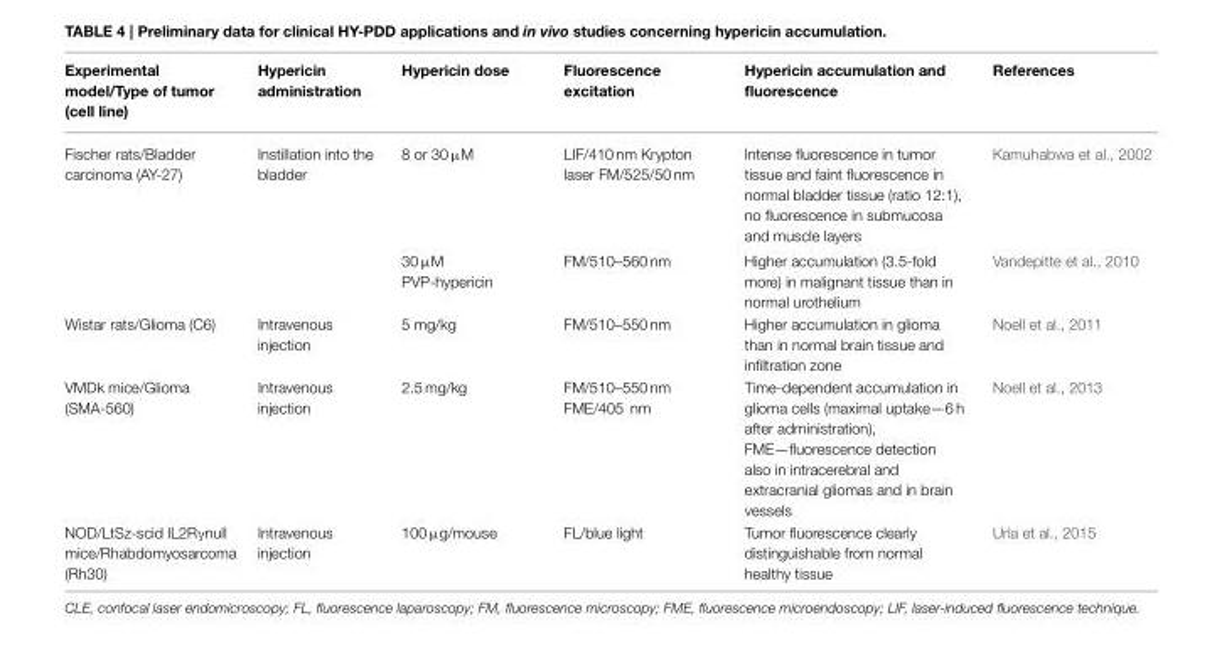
<table><thead><tr><td>Experimental model/Type of tumor (cell line)</td><td>Hypericin administration</td><td>Hypericin dose</td><td>Fluorescence excitation</td><td>Hypericin accumulation and fluorescence</td><td>References</td></tr></thead><tbody><tr><td rowspan="2">Fischer rats/Bladder carcinoma (AY-27)</td><td>Instillation into the bladder</td><td>8 or 30 µM</td><td>LIF/410 nm Krypton laser FM/525/50 nm</td><td>Intense fluorescence in tumor tissue and faint fluorescence in normal bladder tissue (ratio 12:1), no fluorescence in submucosa and muscle layers</td><td>Kamuhabwa et al., 2002</td></tr><tr><td></td><td>30 µM PVP-hypericin</td><td>FM/510–560 nm</td><td>Higher accumulation (3.5-fold more) in malignant tissue than in normal urothelium</td><td>Vandepitte et al., 2010</td></tr><tr><td>Wistar rats/Glioma (C6)</td><td>Intravenous injection</td><td>5 mg/kg</td><td>FM/510–550 nm</td><td>Higher accumulation in glioma than in normal brain tissue and infiltration zone</td><td>Noell et al., 2011</td></tr><tr><td>VMDk mice/Glioma (SMA-560)</td><td>Intravenous injection</td><td>2.5 mg/kg</td><td>FM/510–550 nm FME/405 nm</td><td>Time-dependent accumulation in glioma cells (maximal uptake—6 h after administration), FME—fluorescence detection also in intracerebral and extracranial gliomas and in brain vessels</td><td>Noell et al., 2013</td></tr><tr><td>NOD/LtSz-scid IL2Rγnull mice/Rhabdomyosarcoma (Rh30)</td><td>Intravenous injection</td><td>100 µg/mouse</td><td>FL/blue light</td><td>Tumor fluorescence clearly distinguishable from normal healthy tissue</td><td>Urla et al., 2015</td></tr></tbody></table>